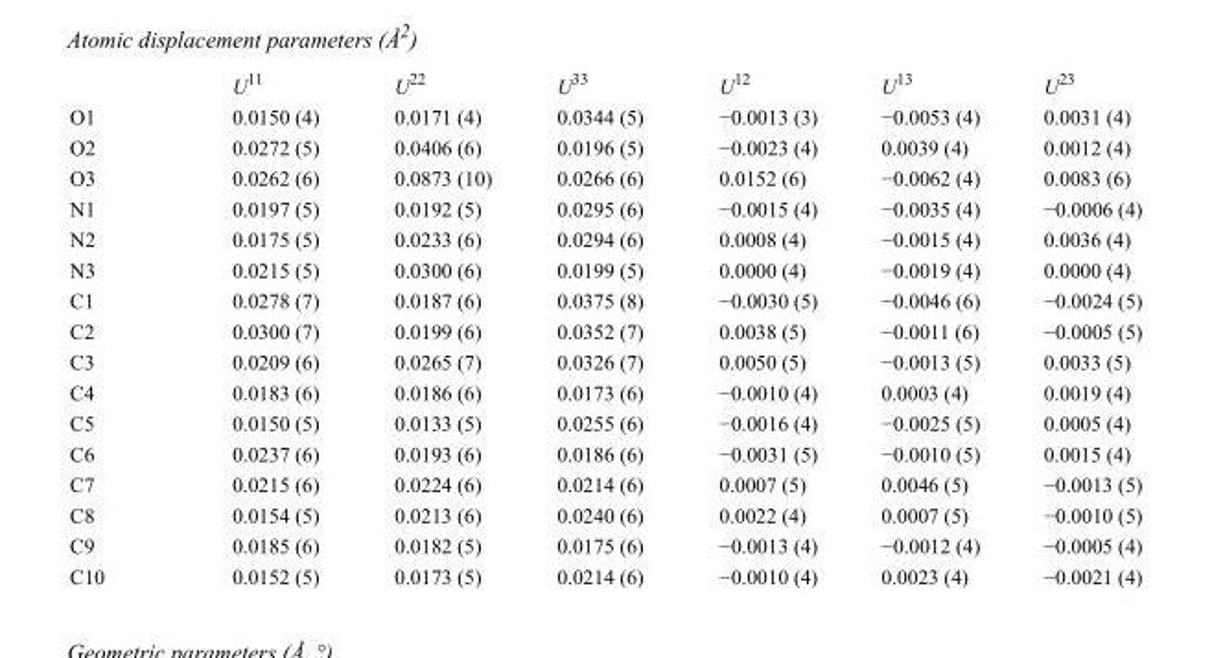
<table><thead><tr><td></td><td>U<sup>11</sup></td><td>U<sup>22</sup></td><td>U<sup>33</sup></td><td>U<sup>12</sup></td><td>U<sup>13</sup></td><td>U<sup>23</sup></td></tr></thead><tbody><tr><td>O1</td><td>0.0150 (4)</td><td>0.0171 (4)</td><td>0.0344 (5)</td><td>−0.0013 (3)</td><td>−0.0053 (4)</td><td>0.0031 (4)</td></tr><tr><td>O2</td><td>0.0272 (5)</td><td>0.0406 (6)</td><td>0.0196 (5)</td><td>−0.0023 (4)</td><td>0.0039 (4)</td><td>0.0012 (4)</td></tr><tr><td>O3</td><td>0.0262 (6)</td><td>0.0873 (10)</td><td>0.0266 (6)</td><td>0.0152 (6)</td><td>−0.0062 (4)</td><td>0.0083 (6)</td></tr><tr><td>N1</td><td>0.0197 (5)</td><td>0.0192 (5)</td><td>0.0295 (6)</td><td>−0.0015 (4)</td><td>−0.0035 (4)</td><td>−0.0006 (4)</td></tr><tr><td>N2</td><td>0.0175 (5)</td><td>0.0233 (6)</td><td>0.0294 (6)</td><td>0.0008 (4)</td><td>−0.0015 (4)</td><td>0.0036 (4)</td></tr><tr><td>N3</td><td>0.0215 (5)</td><td>0.0300 (6)</td><td>0.0199 (5)</td><td>0.0000 (4)</td><td>−0.0019 (4)</td><td>0.0000 (4)</td></tr><tr><td>C1</td><td>0.0278 (7)</td><td>0.0187 (6)</td><td>0.0375 (8)</td><td>−0.0030 (5)</td><td>−0.0046 (6)</td><td>−0.0024 (5)</td></tr><tr><td>C2</td><td>0.0300 (7)</td><td>0.0199 (6)</td><td>0.0352 (7)</td><td>0.0038 (5)</td><td>−0.0011 (6)</td><td>−0.0005 (5)</td></tr><tr><td>C3</td><td>0.0209 (6)</td><td>0.0265 (7)</td><td>0.0326 (7)</td><td>0.0050 (5)</td><td>−0.0013 (5)</td><td>0.0033 (5)</td></tr><tr><td>C4</td><td>0.0183 (6)</td><td>0.0186 (6)</td><td>0.0173 (6)</td><td>−0.0010 (4)</td><td>0.0003 (4)</td><td>0.0019 (4)</td></tr><tr><td>C5</td><td>0.0150 (5)</td><td>0.0133 (5)</td><td>0.0255 (6)</td><td>−0.0016 (4)</td><td>−0.0025 (5)</td><td>0.0005 (4)</td></tr><tr><td>C6</td><td>0.0237 (6)</td><td>0.0193 (6)</td><td>0.0186 (6)</td><td>−0.0031 (5)</td><td>−0.0010 (5)</td><td>0.0015 (4)</td></tr><tr><td>C7</td><td>0.0215 (6)</td><td>0.0224 (6)</td><td>0.0214 (6)</td><td>0.0007 (5)</td><td>0.0046 (5)</td><td>−0.0013 (5)</td></tr><tr><td>C8</td><td>0.0154 (5)</td><td>0.0213 (6)</td><td>0.0240 (6)</td><td>0.0022 (4)</td><td>0.0007 (5)</td><td>−0.0010 (5)</td></tr><tr><td>C9</td><td>0.0185 (6)</td><td>0.0182 (5)</td><td>0.0175 (6)</td><td>−0.0013 (4)</td><td>−0.0012 (4)</td><td>−0.0005 (4)</td></tr><tr><td>C10</td><td>0.0152 (5)</td><td>0.0173 (5)</td><td>0.0214 (6)</td><td>−0.0010 (4)</td><td>0.0023 (4)</td><td>−0.0021 (4)</td></tr></tbody></table>